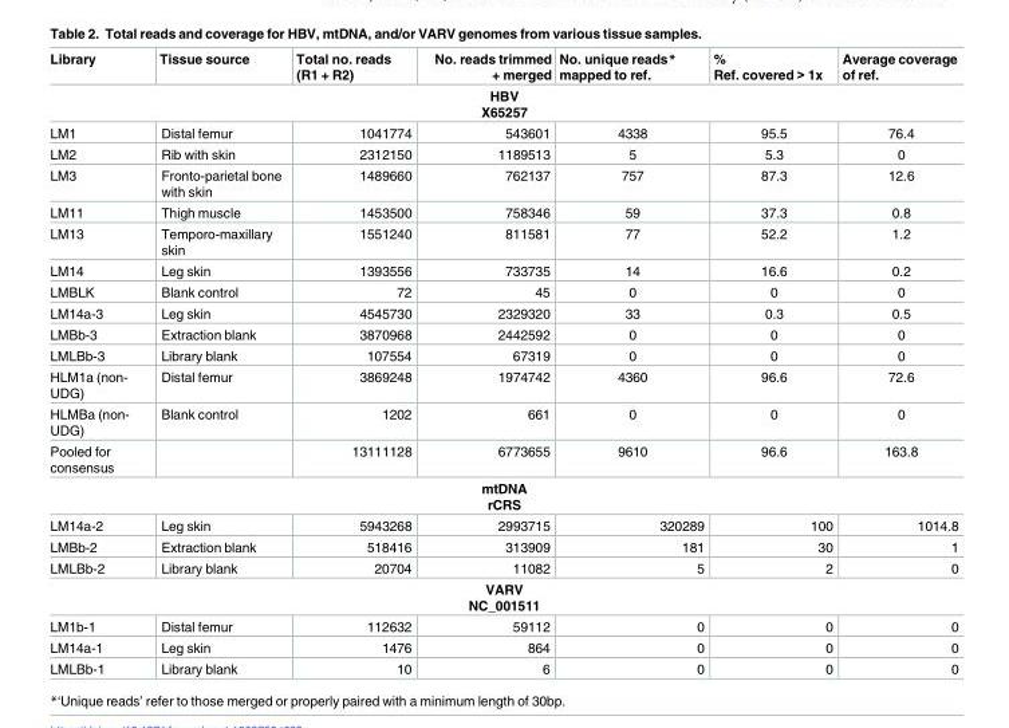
<table><thead><tr><td>Library</td><td>Tissue source</td><td>Total no. reads (R1 + R2)</td><td>No. reads trimmed + merged</td><td>No. unique reads* mapped to ref.</td><td>% Ref. covered &gt; 1x</td><td>Average coverage of ref.</td></tr></thead><tbody><tr><td colspan="7">HBV X65257</td></tr><tr><td>LM1</td><td>Distal femur</td><td>1041774</td><td>543601</td><td>4338</td><td>95.5</td><td>76.4</td></tr><tr><td>LM2</td><td>Rib with skin</td><td>2312150</td><td>1189513</td><td>5</td><td>5.3</td><td>0</td></tr><tr><td>LM3</td><td>Fronto-parietal bone with skin</td><td>1489660</td><td>762137</td><td>757</td><td>87.3</td><td>12.6</td></tr><tr><td>LM11</td><td>Thigh muscle</td><td>1453500</td><td>758346</td><td>59</td><td>37.3</td><td>0.8</td></tr><tr><td>LM13</td><td>Temporo-maxillary skin</td><td>1551240</td><td>811581</td><td>77</td><td>52.2</td><td>1.2</td></tr><tr><td>LM14</td><td>Leg skin</td><td>1393556</td><td>733735</td><td>14</td><td>16.6</td><td>0.2</td></tr><tr><td>LMBLK</td><td>Blank control</td><td>72</td><td>45</td><td>0</td><td>0</td><td>0</td></tr><tr><td>LM14a-3</td><td>Leg skin</td><td>4545730</td><td>2329320</td><td>33</td><td>0.3</td><td>0.5</td></tr><tr><td>LMBb-3</td><td>Extraction blank</td><td>3870968</td><td>2442592</td><td>0</td><td>0</td><td>0</td></tr><tr><td>LMLBb-3</td><td>Library blank</td><td>107554</td><td>67319</td><td>0</td><td>0</td><td>0</td></tr><tr><td>HLM1a (non- UDG)</td><td>Distal femur</td><td>3869248</td><td>1974742</td><td>4360</td><td>96.6</td><td>72.6</td></tr><tr><td>HLMBa (non- UDG)</td><td>Blank control</td><td>1202</td><td>661</td><td>0</td><td>0</td><td>0</td></tr><tr><td>Pooled for consensus</td><td></td><td>13111128</td><td>6773655</td><td>9610</td><td>96.6</td><td>163.8</td></tr><tr><td colspan="7">mtDNA rCRS</td></tr><tr><td>LM14a-2</td><td>Leg skin</td><td>5943268</td><td>2993715</td><td>320289</td><td>100</td><td>1014.8</td></tr><tr><td>LMBb-2</td><td>Extraction blank</td><td>518416</td><td>313909</td><td>181</td><td>30</td><td>1</td></tr><tr><td>LMLBb-2</td><td>Library blank</td><td>20704</td><td>11082</td><td>5</td><td>2</td><td>0</td></tr><tr><td colspan="7">VARV NC_001511</td></tr><tr><td>LM1b-1</td><td>Distal femur</td><td>112632</td><td>59112</td><td>0</td><td>0</td><td>0</td></tr><tr><td>LM14a-1</td><td>Leg skin</td><td>1476</td><td>864</td><td>0</td><td>0</td><td>0</td></tr><tr><td>LMLBb-1</td><td>Library blank</td><td>10</td><td>6</td><td>0</td><td>0</td><td>0</td></tr></tbody></table>